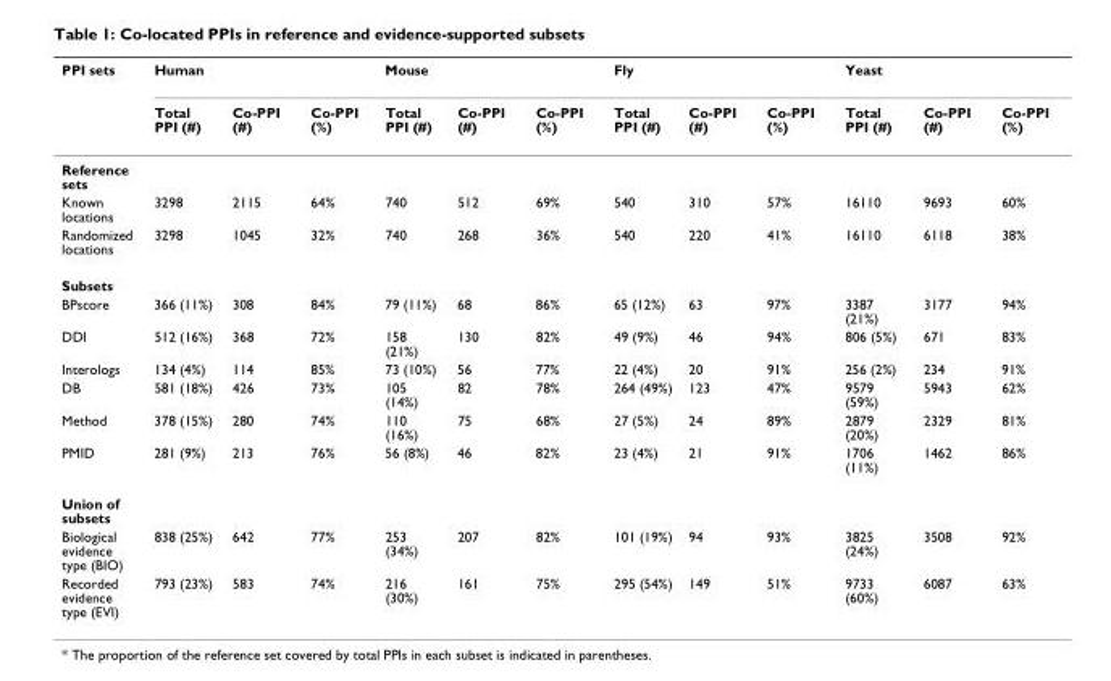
<table><thead><tr><td rowspan="2">PPI sets</td><td colspan="3">Human</td><td colspan="3">Mouse</td><td colspan="3">Fly</td><td colspan="3">Yeast</td></tr><tr><td>Total PPI (#)</td><td>Co-PPI (#)</td><td>Co-PPI (%)</td><td>Total PPI (#)</td><td>Co-PPI (#)</td><td>Co-PPI (%)</td><td>Total PPI (#)</td><td>Co-PPI (#)</td><td>Co-PPI (%)</td><td>Total PPI (#)</td><td>Co-PPI (#)</td><td>Co-PPI (%)</td></tr></thead><tbody><tr><td colspan="13">Reference sets</td></tr><tr><td>Known locations</td><td>3298</td><td>2115</td><td>64%</td><td>740</td><td>512</td><td>69%</td><td>540</td><td>310</td><td>57%</td><td>16110</td><td>9693</td><td>60%</td></tr><tr><td>Randomized locations</td><td>3298</td><td>1045</td><td>32%</td><td>740</td><td>268</td><td>36%</td><td>540</td><td>220</td><td>41%</td><td>16110</td><td>6118</td><td>38%</td></tr><tr><td colspan="13">Subsets</td></tr><tr><td>BPscore</td><td>366 (11%)</td><td>308</td><td>84%</td><td>79 (11%)</td><td>68</td><td>86%</td><td>65 (12%)</td><td>63</td><td>97%</td><td>3387 (21%)</td><td>3177</td><td>94%</td></tr><tr><td>DDI</td><td>512 (16%)</td><td>368</td><td>72%</td><td>158 (21%)</td><td>130</td><td>82%</td><td>49 (9%)</td><td>46</td><td>94%</td><td>806 (5%)</td><td>671</td><td>83%</td></tr><tr><td>Interologs</td><td>134 (4%)</td><td>114</td><td>85%</td><td>73 (10%)</td><td>56</td><td>77%</td><td>22 (4%)</td><td>20</td><td>91%</td><td>256 (2%)</td><td>234</td><td>91%</td></tr><tr><td>DB</td><td>581 (18%)</td><td>426</td><td>73%</td><td>105 (14%)</td><td>82</td><td>78%</td><td>264 (49%)</td><td>123</td><td>47%</td><td>9579 (59%)</td><td>5943</td><td>62%</td></tr><tr><td>Method</td><td>378 (15%)</td><td>280</td><td>74%</td><td>110 (16%)</td><td>75</td><td>68%</td><td>27 (5%)</td><td>24</td><td>89%</td><td>2879 (20%)</td><td>2329</td><td>81%</td></tr><tr><td>PMID</td><td>281 (9%)</td><td>213</td><td>76%</td><td>56 (8%)</td><td>46</td><td>82%</td><td>23 (4%)</td><td>21</td><td>91%</td><td>1706 (11%)</td><td>1462</td><td>86%</td></tr><tr><td colspan="13">Union of subsets</td></tr><tr><td>Biological evidence type (BIO)</td><td>838 (25%)</td><td>642</td><td>77%</td><td>253 (34%)</td><td>207</td><td>82%</td><td>101 (19%)</td><td>94</td><td>93%</td><td>3825 (24%)</td><td>3508</td><td>92%</td></tr><tr><td>Recorded evidence type (EVI)</td><td>793 (23%)</td><td>583</td><td>74%</td><td>216 (30%)</td><td>161</td><td>75%</td><td>295 (54%)</td><td>149</td><td>51%</td><td>9733 (60%)</td><td>6087</td><td>63%</td></tr></tbody></table>